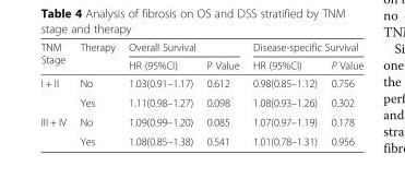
<table><thead><tr><td rowspan="2">TNM Stage</td><td rowspan="2">Therapy</td><td colspan="2">Overall Survival</td><td colspan="2">Disease-specific Survival</td></tr><tr><td>HR (95%CI)</td><td>P Value</td><td>HR (95%CI)</td><td>P Value</td></tr></thead><tbody><tr><td rowspan="2">I + II</td><td>No</td><td>1.03(0.91–1.17)</td><td>0.612</td><td>0.98(0.85–1.12)</td><td>0.756</td></tr><tr><td>Yes</td><td>1.11(0.98–1.27)</td><td>0.098</td><td>1.08(0.93–1.26)</td><td>0.302</td></tr><tr><td rowspan="2">III + IV</td><td>No</td><td>1.09(0.99–1.20)</td><td>0.085</td><td>1.07(0.97–1.19)</td><td>0.178</td></tr><tr><td>Yes</td><td>1.08(0.85–1.38)</td><td>0.541</td><td>1.01(0.78–1.31)</td><td>0.956</td></tr></tbody></table>